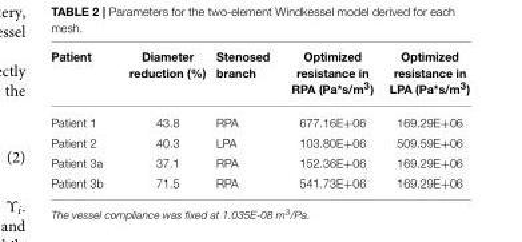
<table><thead><tr><td>Patient</td><td>Diameter reduction (%)</td><td>Stenosed branch</td><td>Optimized resistance in RPA (Pa*s/m<sup>3</sup>)</td><td>Optimized resistance in LPA (Pa*s/m<sup>3</sup>)</td></tr></thead><tbody><tr><td>Patient 1</td><td>43.8</td><td>RPA</td><td>677.16E+06</td><td>169.29E+06</td></tr><tr><td>Patient 2</td><td>40.3</td><td>LPA</td><td>103.80E+06</td><td>509.59E+06</td></tr><tr><td>Patient 3a</td><td>37.1</td><td>RPA</td><td>152.36E+06</td><td>169.29E+06</td></tr><tr><td>Patient 3b</td><td>71.5</td><td>RPA</td><td>541.73E+06</td><td>169.29E+06</td></tr></tbody></table>